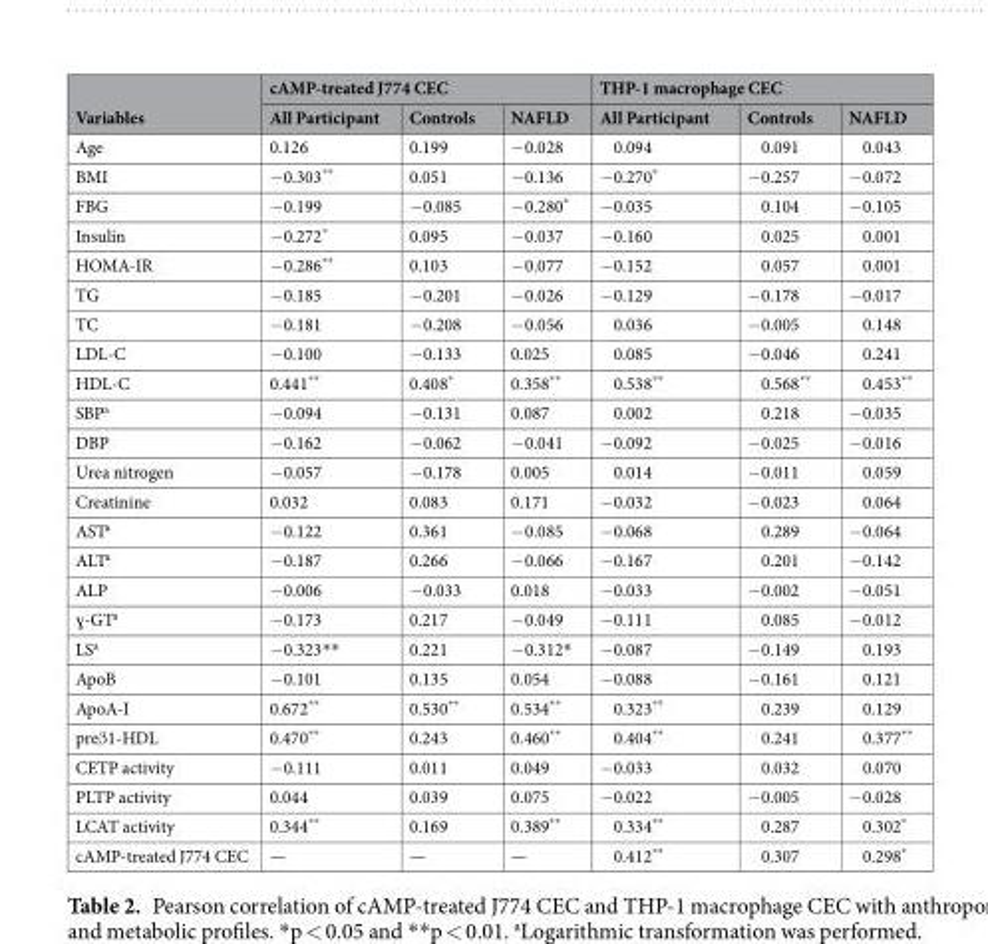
<table><thead><tr><td rowspan="2">Variables</td><td colspan="3">cAMP-treated J774 CEC</td><td colspan="3">THP-1 macrophage CEC</td></tr><tr><td>All Participant</td><td>Controls</td><td>NAFLD</td><td>All Participant</td><td>Controls</td><td>NAFLD</td></tr></thead><tbody><tr><td>Age</td><td>0.126</td><td>0.199</td><td>−0.028</td><td>0.094</td><td>0.091</td><td>0.043</td></tr><tr><td>BMI</td><td>−0.303**</td><td>0.051</td><td>−0.136</td><td>−0.270*</td><td>−0.257</td><td>−0.072</td></tr><tr><td>FBG</td><td>−0.199</td><td>−0.085</td><td>−0.280*</td><td>−0.035</td><td>0.104</td><td>−0.105</td></tr><tr><td>Insulin</td><td>−0.272*</td><td>0.095</td><td>−0.037</td><td>−0.160</td><td>0.025</td><td>0.001</td></tr><tr><td>HOMA-IR</td><td>−0.286**</td><td>0.103</td><td>−0.077</td><td>−0.152</td><td>0.057</td><td>0.001</td></tr><tr><td>TG</td><td>−0.185</td><td>−0.201</td><td>−0.026</td><td>−0.129</td><td>−0.178</td><td>−0.017</td></tr><tr><td>TC</td><td>−0.181</td><td>−0.208</td><td>−0.056</td><td>0.036</td><td>−0.005</td><td>0.148</td></tr><tr><td>LDL-C</td><td>−0.100</td><td>−0.133</td><td>0.025</td><td>0.085</td><td>−0.046</td><td>0.241</td></tr><tr><td>HDL-C</td><td>0.441**</td><td>0.408*</td><td>0.358**</td><td>0.538**</td><td>0.568**</td><td>0.453**</td></tr><tr><td>SBP<sup>a</sup></td><td>−0.094</td><td>−0.131</td><td>0.087</td><td>0.002</td><td>0.218</td><td>−0.035</td></tr><tr><td>DBP</td><td>−0.162</td><td>−0.062</td><td>−0.041</td><td>−0.092</td><td>−0.025</td><td>−0.016</td></tr><tr><td>Urea nitrogen</td><td>−0.057</td><td>−0.178</td><td>0.005</td><td>0.014</td><td>−0.011</td><td>0.059</td></tr><tr><td>Creatinine</td><td>0.032</td><td>0.083</td><td>0.171</td><td>−0.032</td><td>−0.023</td><td>0.064</td></tr><tr><td>AST<sup>a</sup></td><td>−0.122</td><td>0.361</td><td>−0.085</td><td>−0.068</td><td>0.289</td><td>−0.064</td></tr><tr><td>ALT<sup>a</sup></td><td>−0.187</td><td>0.266</td><td>−0.066</td><td>−0.167</td><td>0.201</td><td>−0.142</td></tr><tr><td>ALP</td><td>−0.006</td><td>−0.033</td><td>0.018</td><td>−0.033</td><td>−0.002</td><td>−0.051</td></tr><tr><td>ɣ-GT<sup>a</sup></td><td>−0.173</td><td>0.217</td><td>−0.049</td><td>−0.111</td><td>0.085</td><td>−0.012</td></tr><tr><td>LS<sup>a</sup></td><td>−0.323**</td><td>0.221</td><td>−0.312*</td><td>−0.087</td><td>−0.149</td><td>0.193</td></tr><tr><td>ApoB</td><td>−0.101</td><td>0.135</td><td>0.054</td><td>−0.088</td><td>−0.161</td><td>0.121</td></tr><tr><td>ApoA-I</td><td>0.672**</td><td>0.530**</td><td>0.534**</td><td>0.323**</td><td>0.239</td><td>0.129</td></tr><tr><td>preβ1-HDL</td><td>0.470**</td><td>0.243</td><td>0.460**</td><td>0.404**</td><td>0.241</td><td>0.377**</td></tr><tr><td>CETP activity</td><td>−0.111</td><td>0.011</td><td>0.049</td><td>−0.033</td><td>0.032</td><td>0.070</td></tr><tr><td>PLTP activity</td><td>0.044</td><td>0.039</td><td>0.075</td><td>−0.022</td><td>−0.005</td><td>−0.028</td></tr><tr><td>LCAT activity</td><td>0.344**</td><td>0.169</td><td>0.389**</td><td>0.334**</td><td>0.287</td><td>0.302*</td></tr><tr><td>cAMP-treated J774 CEC</td><td>—</td><td>—</td><td>—</td><td>0.412**</td><td>0.307</td><td>0.298*</td></tr></tbody></table>